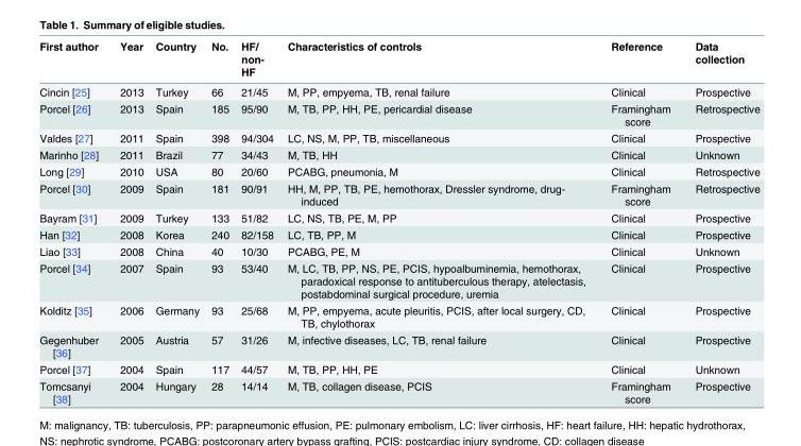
<table><thead><tr><td>First author</td><td>Year</td><td>Country</td><td>No.</td><td>HF/ non- HF</td><td>Characteristics of controls</td><td>Reference</td><td>Data collection</td></tr></thead><tbody><tr><td>Cincin [25]</td><td>2013</td><td>Turkey</td><td>66</td><td>21/45</td><td>M, PP, empyema, TB, renal failure</td><td>Clinical</td><td>Prospective</td></tr><tr><td>Porcel [26]</td><td>2013</td><td>Spain</td><td>185</td><td>95/90</td><td>M, TB, PP, HH, PE, pericardial disease</td><td>Framingham score</td><td>Retrospective</td></tr><tr><td>Valdes [27]</td><td>2011</td><td>Spain</td><td>398</td><td>94/304</td><td>LC, NS, M, PP, TB, miscellaneous</td><td>Clinical</td><td>Prospective</td></tr><tr><td>Marinho [28]</td><td>2011</td><td>Brazil</td><td>77</td><td>34/43</td><td>M, TB, HH</td><td>Clinical</td><td>Unknown</td></tr><tr><td>Long [29]</td><td>2010</td><td>USA</td><td>80</td><td>20/60</td><td>PCABG, pneumonia, M</td><td>Clinical</td><td>Retrospective</td></tr><tr><td>Porcel [30]</td><td>2009</td><td>Spain</td><td>181</td><td>90/91</td><td>HH, M, PP, TB, PE, hemothorax, Dressler syndrome, drug- induced</td><td>Framingham score</td><td>Retrospective</td></tr><tr><td>Bayram [31]</td><td>2009</td><td>Turkey</td><td>133</td><td>51/82</td><td>LC, NS, TB, PE, M, PP</td><td>Clinical</td><td>Prospective</td></tr><tr><td>Han [32]</td><td>2008</td><td>Korea</td><td>240</td><td>82/158</td><td>LC, TB, PP, M</td><td>Clinical</td><td>Prospective</td></tr><tr><td>Liao [33]</td><td>2008</td><td>China</td><td>40</td><td>10/30</td><td>PCABG, PE, M</td><td>Clinical</td><td>Unknown</td></tr><tr><td>Porcel [34]</td><td>2007</td><td>Spain</td><td>93</td><td>53/40</td><td>M, LC, TB, PP, NS, PE, PCIS, hypoalbuminemia, hemothorax, paradoxical response to antituberculous therapy, atelectasis, postabdominal surgical procedure, uremia</td><td>Clinical</td><td>Prospective</td></tr><tr><td>Kolditz [35]</td><td>2006</td><td>Germany</td><td>93</td><td>25/68</td><td>M, PP, empyema, acute pleuritis, PCIS, after local surgery, CD, TB, chylothorax</td><td>Clinical</td><td>Prospective</td></tr><tr><td>Gegenhuber [36]</td><td>2005</td><td>Austria</td><td>57</td><td>31/26</td><td>M, infective diseases, LC, TB, renal failure</td><td>Clinical</td><td>Prospective</td></tr><tr><td>Porcel [37]</td><td>2004</td><td>Spain</td><td>117</td><td>44/57</td><td>M, TB, PP, HH, PE</td><td>Clinical</td><td>Unknown</td></tr><tr><td>Tomcsanyi [38]</td><td>2004</td><td>Hungary</td><td>28</td><td>14/14</td><td>M, TB, collagen disease, PCIS</td><td>Framingham score</td><td>Prospective</td></tr></tbody></table>